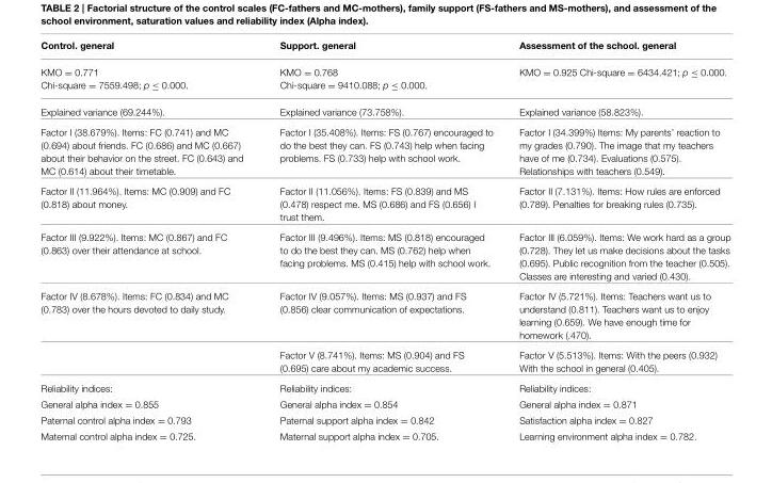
<table><thead><tr><td>Control. general</td><td>Support. general</td><td>Assessment of the school. general</td></tr></thead><tbody><tr><td>KMO = 0.771 Chi-square = 7559.498; p ≤ 0.000.</td><td>KMO = 0.768 Chi-square = 9410.088; p ≤ 0.000.</td><td>KMO = 0.925 Chi-square = 6434.421; p ≤ 0.000.</td></tr><tr><td>Explained variance (69.244%).</td><td>Explained variance (73.758%).</td><td>Explained variance (58.823%).</td></tr><tr><td>Factor I (38.679%). Items: FC (0.741) and MC (0.694) about friends. FC (0.686) and MC (0.667) about their behavior on the street. FC (0.643) and MC (0.614) about their timetable.</td><td>Factor I (35.408%). Items: FS (0.767) encouraged to do the best they can. FS (0.743) help when facing problems. FS (0.733) help with school work.</td><td>Factor I (34.399%) Items: My parents’ reaction to my grades (0.790). The image that my teachers have of me (0.734). Evaluations (0.575). Relationships with teachers (0.549).</td></tr><tr><td>Factor II (11.964%). Items: MC (0.909) and FC (0.818) about money.</td><td>Factor II (11.056%). Items: FS (0.839) and MS (0.478) respect me. MS (0.686) and FS (0.656) I trust them.</td><td>Factor II (7.131%). Items: How rules are enforced (0.789). Penalties for breaking rules (0.735).</td></tr><tr><td>Factor III (9.922%). Items: MC (0.867) and FC (0.863) over their attendance at school.</td><td>Factor III (9.496%). Items: MS (0.818) encouraged to do the best they can. MS (0.762) help when facing problems. MS (0.415) help with school work.</td><td>Factor III (6.059%). Items: We work hard as a group (0.728). They let us make decisions about the tasks (0.695). Public recognition from the teacher (0.505). Classes are interesting and varied (0.430).</td></tr><tr><td rowspan="2">Factor IV (8.678%). Items: FC (0.834) and MC (0.783) over the hours devoted to daily study.</td><td>Factor IV (9.057%). Items: MS (0.937) and FS (0.856) clear communication of expectations.</td><td>Factor IV (5.721%). Items: Teachers want us to understand (0.811). Teachers want us to enjoy learning (0.659). We have enough time for homework (.470).</td></tr><tr><td>Factor V (8.741%). Items: MS (0.904) and FS (0.695) care about my academic success.</td><td>Factor V (5.513%). Items: With the peers (0.932) With the school in general (0.405).</td></tr><tr><td>Reliability indices:</td><td>Reliability indices:</td><td>Reliability indices:</td></tr><tr><td>General alpha index = 0.855</td><td>General alpha index = 0.854</td><td>General alpha index = 0.871</td></tr><tr><td>Paternal control alpha index = 0.793</td><td>Paternal support alpha index = 0.842</td><td>Satisfaction alpha index = 0.827</td></tr><tr><td>Maternal control alpha index = 0.725.</td><td>Maternal support alpha index = 0.705.</td><td>Learning environment alpha index = 0.782.</td></tr></tbody></table>